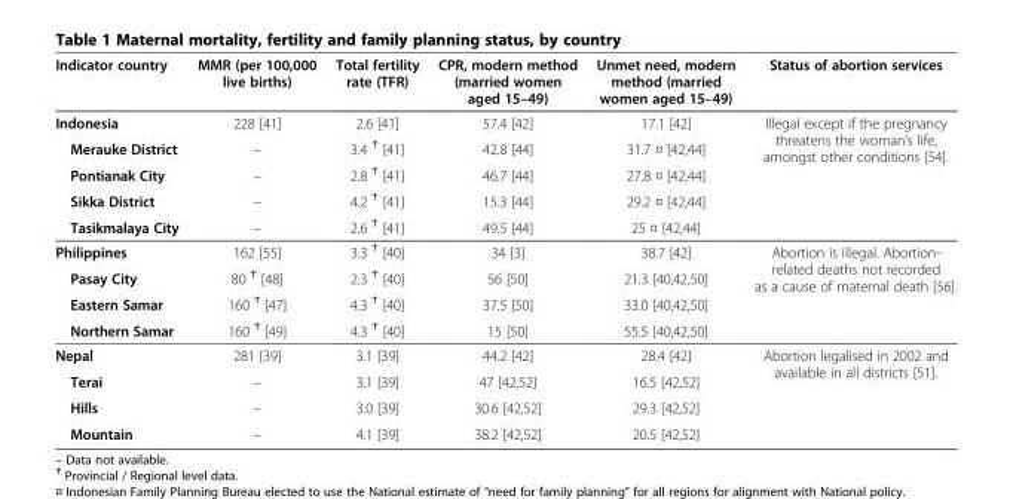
<table><thead><tr><td>Indicator country</td><td>MMR (per 100,000 live births)</td><td>Total fertility rate (TFR)</td><td>CPR, modern method (married women aged 15–49)</td><td>Unmet need, modern method (married women aged 15–49)</td><td>Status of abortion services</td></tr></thead><tbody><tr><td>Indonesia</td><td>228 [41]</td><td>2.6 [41]</td><td>57.4 [42]</td><td>17.1 [42]</td><td rowspan="5">Illegal except if the pregnancy threatens the woman’s life, amongst other conditions [54].</td></tr><tr><td>Merauke District</td><td>–</td><td>3.4 <sup>Ϯ</sup> [41]</td><td>42.8 [44]</td><td>31.7 ¤ [42,44]</td></tr><tr><td>Pontianak City</td><td>–</td><td>2.8 <sup>Ϯ</sup> [41]</td><td>46.7 [44]</td><td>27.8 ¤ [42,44]</td></tr><tr><td>Sikka District</td><td>–</td><td>4.2 <sup>Ϯ</sup> [41]</td><td>15.3 [44]</td><td>29.2 ¤ [42,44]</td></tr><tr><td>Tasikmalaya City</td><td>–</td><td>2.6 <sup>Ϯ</sup> [41]</td><td>49.5 [44]</td><td>25 ¤ [42,44]</td></tr><tr><td>Philippines</td><td>162 [55]</td><td>3.3 <sup>Ϯ</sup> [40]</td><td>34 [3]</td><td>38.7 [42]</td><td rowspan="4">Abortion is illegal. Abortion- related deaths not recorded as a cause of maternal death [56].</td></tr><tr><td>Pasay City</td><td>80 <sup>Ϯ</sup> [48]</td><td>2.3 <sup>Ϯ</sup> [40]</td><td>56 [50]</td><td>21.3 [40,42,50]</td></tr><tr><td>Eastern Samar</td><td>160 <sup>Ϯ</sup> [47]</td><td>4.3 <sup>Ϯ</sup> [40]</td><td>37.5 [50]</td><td>33.0 [40,42,50]</td></tr><tr><td>Northern Samar</td><td>160 <sup>Ϯ</sup> [49]</td><td>4.3 <sup>Ϯ</sup> [40]</td><td>15 [50]</td><td>55.5 [40,42,50]</td></tr><tr><td>Nepal</td><td>281 [39]</td><td>3.1 [39]</td><td>44.2 [42]</td><td>28.4 [42]</td><td rowspan="4">Abortion legalised in 2002 and available in all districts [51].</td></tr><tr><td>Terai</td><td>–</td><td>3.1 [39]</td><td>47 [42,52]</td><td>16.5 [42,52]</td></tr><tr><td>Hills</td><td>–</td><td>3.0 [39]</td><td>30.6 [42,52]</td><td>29.3 [42,52]</td></tr><tr><td>Mountain</td><td>–</td><td>4.1 [39]</td><td>38.2 [42,52]</td><td>20.5 [42,52]</td></tr></tbody></table>